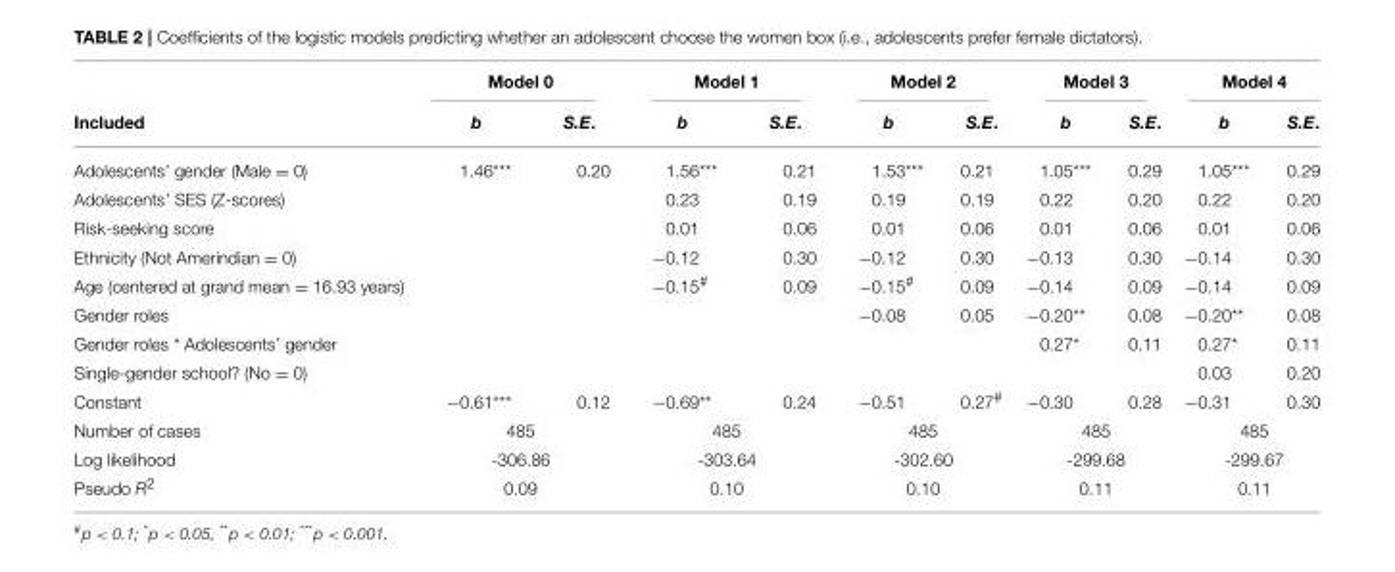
<table><thead><tr><td rowspan="2">Included</td><td colspan="2">Model 0</td><td colspan="2">Model 1</td><td colspan="2">Model 2</td><td colspan="2">Model 3</td><td colspan="2">Model 4</td></tr><tr><td>b</td><td>S.E.</td><td>b</td><td>S.E.</td><td>b</td><td>S.E.</td><td>b</td><td>S.E.</td><td>b</td><td>S.E.</td></tr></thead><tbody><tr><td>Adolescents’ gender (Male = 0)</td><td>1.46***</td><td>0.20</td><td>1.56***</td><td>0.21</td><td>1.53***</td><td>0.21</td><td>1.05***</td><td>0.29</td><td>1.05***</td><td>0.29</td></tr><tr><td>Adolescents’ SES (Z-scores)</td><td></td><td></td><td>0.23</td><td>0.19</td><td>0.19</td><td>0.19</td><td>0.22</td><td>0.20</td><td>0.22</td><td>0.20</td></tr><tr><td>Risk-seeking score</td><td></td><td></td><td>0.01</td><td>0.06</td><td>0.01</td><td>0.06</td><td>0.01</td><td>0.06</td><td>0.01</td><td>0.06</td></tr><tr><td>Ethnicity (Not Amerindian = 0)</td><td></td><td></td><td>−0.12</td><td>0.30</td><td>−0.12</td><td>0.30</td><td>−0.13</td><td>0.30</td><td>−0.14</td><td>0.30</td></tr><tr><td>Age (centered at grand mean = 16.93 years)</td><td></td><td></td><td>−0.15<sup>#</sup></td><td>0.09</td><td>−0.15<sup>#</sup></td><td>0.09</td><td>−0.14</td><td>0.09</td><td>−0.14</td><td>0.09</td></tr><tr><td>Gender roles</td><td></td><td></td><td></td><td></td><td>−0.08</td><td>0.05</td><td>−0.20**</td><td>0.08</td><td>−0.20**</td><td>0.08</td></tr><tr><td>Gender roles * Adolescents’ gender</td><td></td><td></td><td></td><td></td><td></td><td></td><td>0.27*</td><td>0.11</td><td>0.27*</td><td>0.11</td></tr><tr><td>Single-gender school? (No = 0)</td><td></td><td></td><td></td><td></td><td></td><td></td><td></td><td></td><td>0.03</td><td>0.20</td></tr><tr><td>Constant</td><td>−0.61***</td><td>0.12</td><td>−0.69**</td><td>0.24</td><td>−0.51</td><td>0.27<sup>#</sup></td><td>−0.30</td><td>0.28</td><td>−0.31</td><td>0.30</td></tr><tr><td>Number of cases</td><td colspan="2">485</td><td colspan="2">485</td><td colspan="2">485</td><td colspan="2">485</td><td colspan="2">485</td></tr><tr><td>Log likelihood</td><td colspan="2">-306.86</td><td colspan="2">-303.64</td><td colspan="2">-302.60</td><td colspan="2">-299.68</td><td colspan="2">-299.67</td></tr><tr><td>Pseudo R<sup>2</sup></td><td colspan="2">0.09</td><td colspan="2">0.10</td><td colspan="2">0.10</td><td colspan="2">0.11</td><td colspan="2">0.11</td></tr></tbody></table>